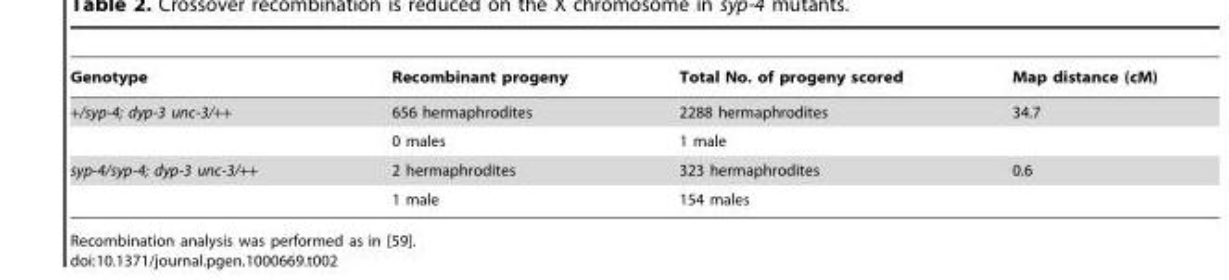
<table><thead><tr><td>Genotype</td><td>Recombinant progeny</td><td>Total No. of progeny scored</td><td>Map distance (cM)</td></tr></thead><tbody><tr><td rowspan="2">+/syp-4; dyp-3 unc-3/++</td><td>656 hermaphrodites</td><td>2288 hermaphrodites</td><td>34.7</td></tr><tr><td>0 males</td><td>1 male</td><td></td></tr><tr><td rowspan="2">syp-4/syp-4; dyp-3 unc-3/++</td><td>2 hermaphrodites</td><td>323 hermaphrodites</td><td>0.6</td></tr><tr><td>1 male</td><td>154 males</td><td></td></tr></tbody></table>